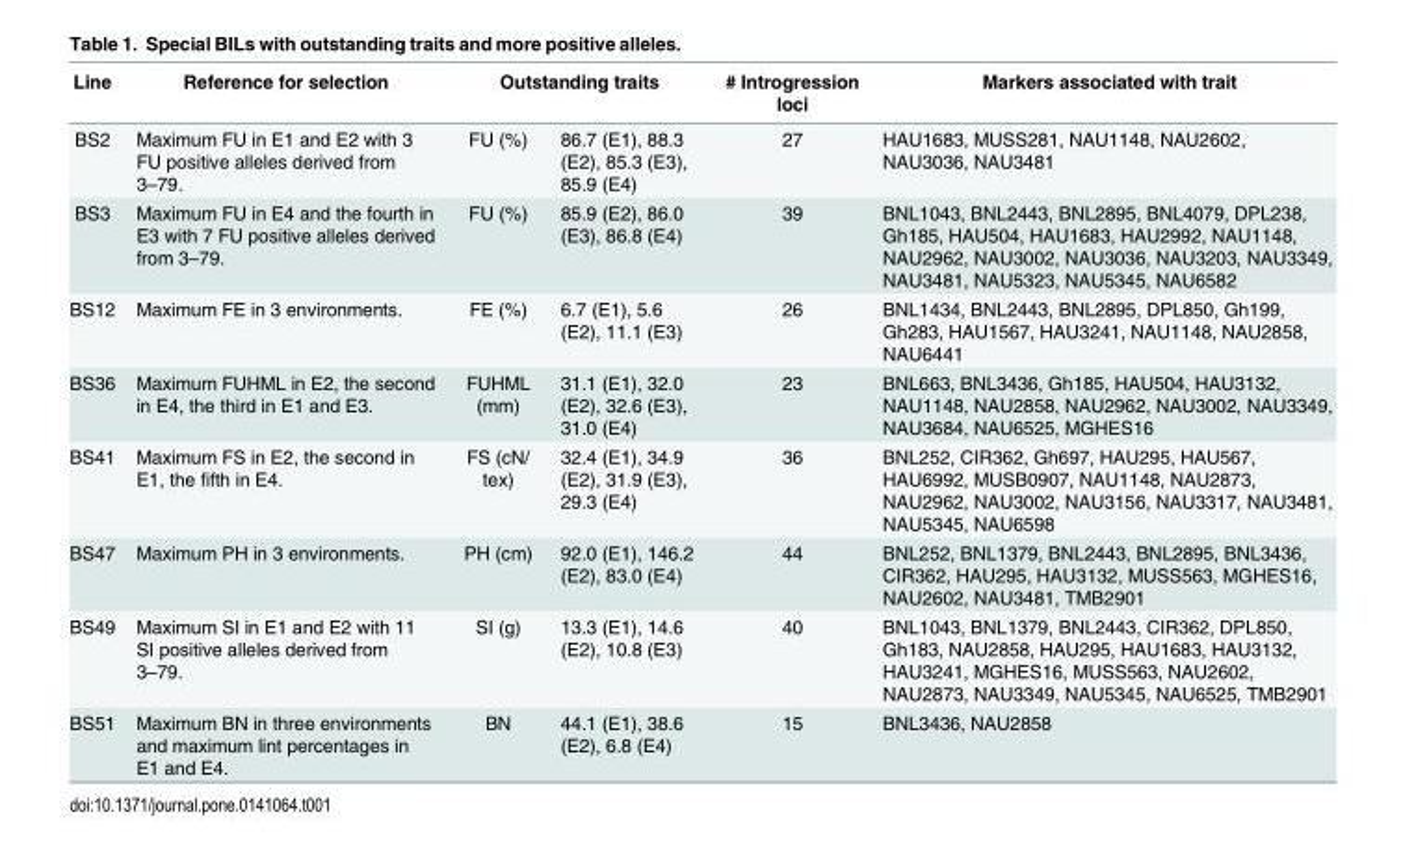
<table><thead><tr><td rowspan="2">Line BS2</td><td rowspan="2">Reference for selection Maximum FU in E1 and E2 with 3 FU positive alleles derived from 3–79.</td><td colspan="2">Outstanding traits</td><td rowspan="2"># Introgression loci 27</td><td rowspan="2">Markers associated with trait HAU1683, MUSS281, NAU1148, NAU2602, NAU3036, NAU3481</td></tr><tr><td>FU (%)</td><td>86.7 (E1), 88.3 (E2), 85.3 (E3), 85.9 (E4)</td></tr></thead><tbody><tr><td>BS3</td><td>Maximum FU in E4 and the fourth in E3 with 7 FU positive alleles derived from 3–79.</td><td>FU (%)</td><td>85.9 (E2), 86.0 (E3), 86.8 (E4)</td><td>39</td><td>BNL1043, BNL2443, BNL2895, BNL4079, DPL238, Gh185, HAU504, HAU1683, HAU2992, NAU1148, NAU2962, NAU3002, NAU3036, NAU3203, NAU3349, NAU3481, NAU5323, NAU5345, NAU6582</td></tr><tr><td>BS12</td><td>Maximum FE in 3 environments.</td><td>FE (%)</td><td>6.7 (E1), 5.6 (E2), 11.1 (E3)</td><td>26</td><td>BNL1434, BNL2443, BNL2895, DPL850, Gh199, Gh283, HAU1567, HAU3241, NAU1148, NAU2858, NAU6441</td></tr><tr><td>BS36</td><td>Maximum FUHML in E2, the second in E4, the third in E1 and E3.</td><td>FUHML (mm)</td><td>31.1 (E1), 32.0 (E2), 32.6 (E3), 31.0 (E4)</td><td>23</td><td>BNL663, BNL3436, Gh185, HAU504, HAU3132, NAU1148, NAU2858, NAU2962, NAU3002, NAU3349, NAU3684, NAU6525, MGHES16</td></tr><tr><td>BS41</td><td>Maximum FS in E2, the second in E1, the fifth in E4.</td><td>FS (cN/ tex)</td><td>32.4 (E1), 34.9 (E2), 31.9 (E3), 29.3 (E4)</td><td>36</td><td>BNL252, CIR362, Gh697, HAU295, HAU567, HAU6992, MUSB0907, NAU1148, NAU2873, NAU2962, NAU3002, NAU3156, NAU3317, NAU3481, NAU5345, NAU6598</td></tr><tr><td>BS47</td><td>Maximum PH in 3 environments.</td><td>PH (cm)</td><td>92.0 (E1), 146.2 (E2), 83.0 (E4)</td><td>44</td><td>BNL252, BNL1379, BNL2443, BNL2895, BNL3436, CIR362, HAU295, HAU3132, MUSS563, MGHES16, NAU2602, NAU3481, TMB2901</td></tr><tr><td>BS49</td><td>Maximum SI in E1 and E2 with 11 SI positive alleles derived from 3–79.</td><td>SI (g)</td><td>13.3 (E1), 14.6 (E2), 10.8 (E3)</td><td>40</td><td>BNL1043, BNL1379, BNL2443, CIR362, DPL850, Gh183, NAU2858, HAU295, HAU1683, HAU3132, HAU3241, MGHES16, MUSS563, NAU2602, NAU2873, NAU3349, NAU5345, NAU6525, TMB2901</td></tr><tr><td>BS51</td><td>Maximum BN in three environments and maximum lint percentages in E1 and E4.</td><td>BN</td><td>44.1 (E1), 38.6 (E2), 6.8 (E4)</td><td>15</td><td>BNL3436, NAU2858</td></tr></tbody></table>